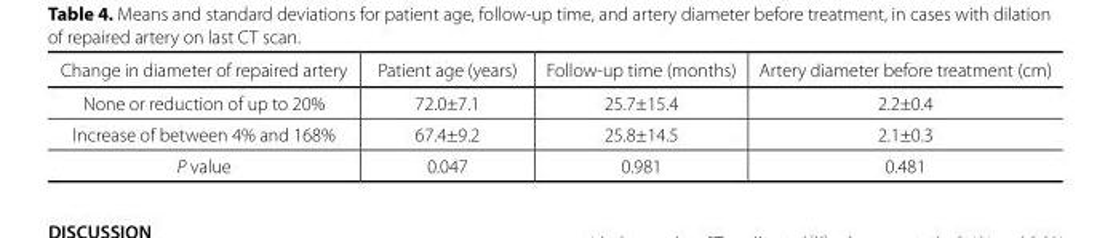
<table><thead><tr><td>Change in diameter of repaired artery</td><td>Patient age (years)</td><td>Follow-up time (months)</td><td>Artery diameter before treatment (cm)</td></tr></thead><tbody><tr><td>None or reduction of up to 20%</td><td>72.0±7.1</td><td>25.7±15.4</td><td>2.2±0.4</td></tr><tr><td>Increase of between 4% and 168%</td><td>67.4±9.2</td><td>25.8±14.5</td><td>2.1±0.3</td></tr><tr><td>P value</td><td>0.047</td><td>0.981</td><td>0.481</td></tr></tbody></table>